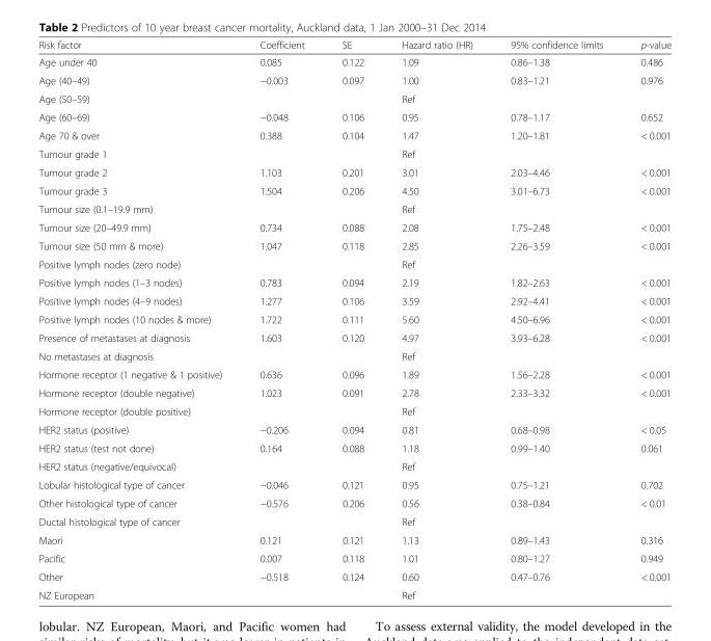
<table><thead><tr><td>Risk factor</td><td>Coefficient</td><td>SE</td><td>Hazard ratio (HR)</td><td>95% confidence limits</td><td>p-value</td></tr></thead><tbody><tr><td>Age under 40</td><td>0.085</td><td>0.122</td><td>1.09</td><td>0.86–1.38</td><td>0.486</td></tr><tr><td>Age (40–49)</td><td>−0.003</td><td>0.097</td><td>1.00</td><td>0.83–1.21</td><td>0.976</td></tr><tr><td>Age (50–59)</td><td></td><td></td><td>Ref</td><td></td><td></td></tr><tr><td>Age (60–69)</td><td>−0.048</td><td>0.106</td><td>0.95</td><td>0.78–1.17</td><td>0.652</td></tr><tr><td>Age 70 &amp; over</td><td>0.388</td><td>0.104</td><td>1.47</td><td>1.20–1.81</td><td>&lt; 0.001</td></tr><tr><td>Tumour grade 1</td><td></td><td></td><td>Ref</td><td></td><td></td></tr><tr><td>Tumour grade 2</td><td>1.103</td><td>0.201</td><td>3.01</td><td>2.03–4.46</td><td>&lt; 0.001</td></tr><tr><td>Tumour grade 3</td><td>1.504</td><td>0.206</td><td>4.50</td><td>3.01–6.73</td><td>&lt; 0.001</td></tr><tr><td>Tumour size (0.1–19.9 mm)</td><td></td><td></td><td>Ref</td><td></td><td></td></tr><tr><td>Tumour size (20–49.9 mm)</td><td>0.734</td><td>0.088</td><td>2.08</td><td>1.75–2.48</td><td>&lt; 0.001</td></tr><tr><td>Tumour size (50 mm &amp; more)</td><td>1.047</td><td>0.118</td><td>2.85</td><td>2.26–3.59</td><td>&lt; 0.001</td></tr><tr><td>Positive lymph nodes (zero node)</td><td></td><td></td><td>Ref</td><td></td><td></td></tr><tr><td>Positive lymph nodes (1–3 nodes)</td><td>0.783</td><td>0.094</td><td>2.19</td><td>1.82–2.63</td><td>&lt; 0.001</td></tr><tr><td>Positive lymph nodes (4–9 nodes)</td><td>1.277</td><td>0.106</td><td>3.59</td><td>2.92–4.41</td><td>&lt; 0.001</td></tr><tr><td>Positive lymph nodes (10 nodes &amp; more)</td><td>1.722</td><td>0.111</td><td>5.60</td><td>4.50–6.96</td><td>&lt; 0.001</td></tr><tr><td>Presence of metastases at diagnosis</td><td>1.603</td><td>0.120</td><td>4.97</td><td>3.93–6.28</td><td>&lt; 0.001</td></tr><tr><td>No metastases at diagnosis</td><td></td><td></td><td>Ref</td><td></td><td></td></tr><tr><td>Hormone receptor (1 negative &amp; 1 positive)</td><td>0.636</td><td>0.096</td><td>1.89</td><td>1.56–2.28</td><td>&lt; 0.001</td></tr><tr><td>Hormone receptor (double negative)</td><td>1.023</td><td>0.091</td><td>2.78</td><td>2.33–3.32</td><td>&lt; 0.001</td></tr><tr><td>Hormone receptor (double positive)</td><td></td><td></td><td>Ref</td><td></td><td></td></tr><tr><td>HER2 status (positive)</td><td>−0.206</td><td>0.094</td><td>0.81</td><td>0.68–0.98</td><td>&lt; 0.05</td></tr><tr><td>HER2 status (test not done)</td><td>0.164</td><td>0.088</td><td>1.18</td><td>0.99–1.40</td><td>0.061</td></tr><tr><td>HER2 status (negative/equivocal)</td><td></td><td></td><td>Ref</td><td></td><td></td></tr><tr><td>Lobular histological type of cancer</td><td>−0.046</td><td>0.121</td><td>0.95</td><td>0.75–1.21</td><td>0.702</td></tr><tr><td>Other histological type of cancer</td><td>−0.576</td><td>0.206</td><td>0.56</td><td>0.38–0.84</td><td>&lt; 0.01</td></tr><tr><td>Ductal histological type of cancer</td><td></td><td></td><td>Ref</td><td></td><td></td></tr><tr><td>Maori</td><td>0.121</td><td>0.121</td><td>1.13</td><td>0.89–1.43</td><td>0.316</td></tr><tr><td>Pacific</td><td>0.007</td><td>0.118</td><td>1.01</td><td>0.80–1.27</td><td>0.949</td></tr><tr><td>Other</td><td>−0.518</td><td>0.124</td><td>0.60</td><td>0.47–0.76</td><td>&lt; 0.001</td></tr><tr><td>NZ European</td><td></td><td></td><td>Ref</td><td></td><td></td></tr></tbody></table>